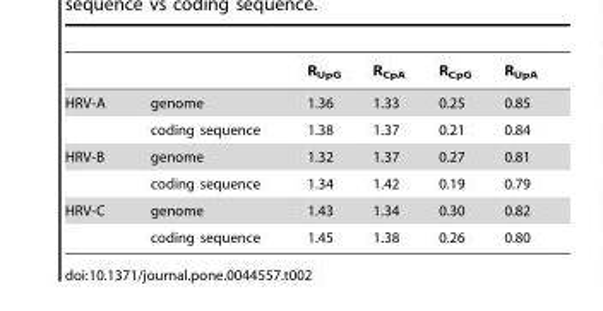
<table><thead><tr><td></td><td></td><td>R<sub>UpG</sub></td><td>R<sub>CpA</sub></td><td>R<sub>CpG</sub></td><td>R<sub>UpA</sub></td></tr></thead><tbody><tr><td rowspan="2">HRV-A</td><td>genome</td><td>1.36</td><td>1.33</td><td>0.25</td><td>0.85</td></tr><tr><td>coding sequence</td><td>1.38</td><td>1.37</td><td>0.21</td><td>0.84</td></tr><tr><td rowspan="2">HRV-B</td><td>genome</td><td>1.32</td><td>1.37</td><td>0.27</td><td>0.81</td></tr><tr><td>coding sequence</td><td>1.34</td><td>1.42</td><td>0.19</td><td>0.79</td></tr><tr><td rowspan="2">HRV-C</td><td>genome</td><td>1.43</td><td>1.34</td><td>0.30</td><td>0.82</td></tr><tr><td>coding sequence</td><td>1.45</td><td>1.38</td><td>0.26</td><td>0.80</td></tr></tbody></table>